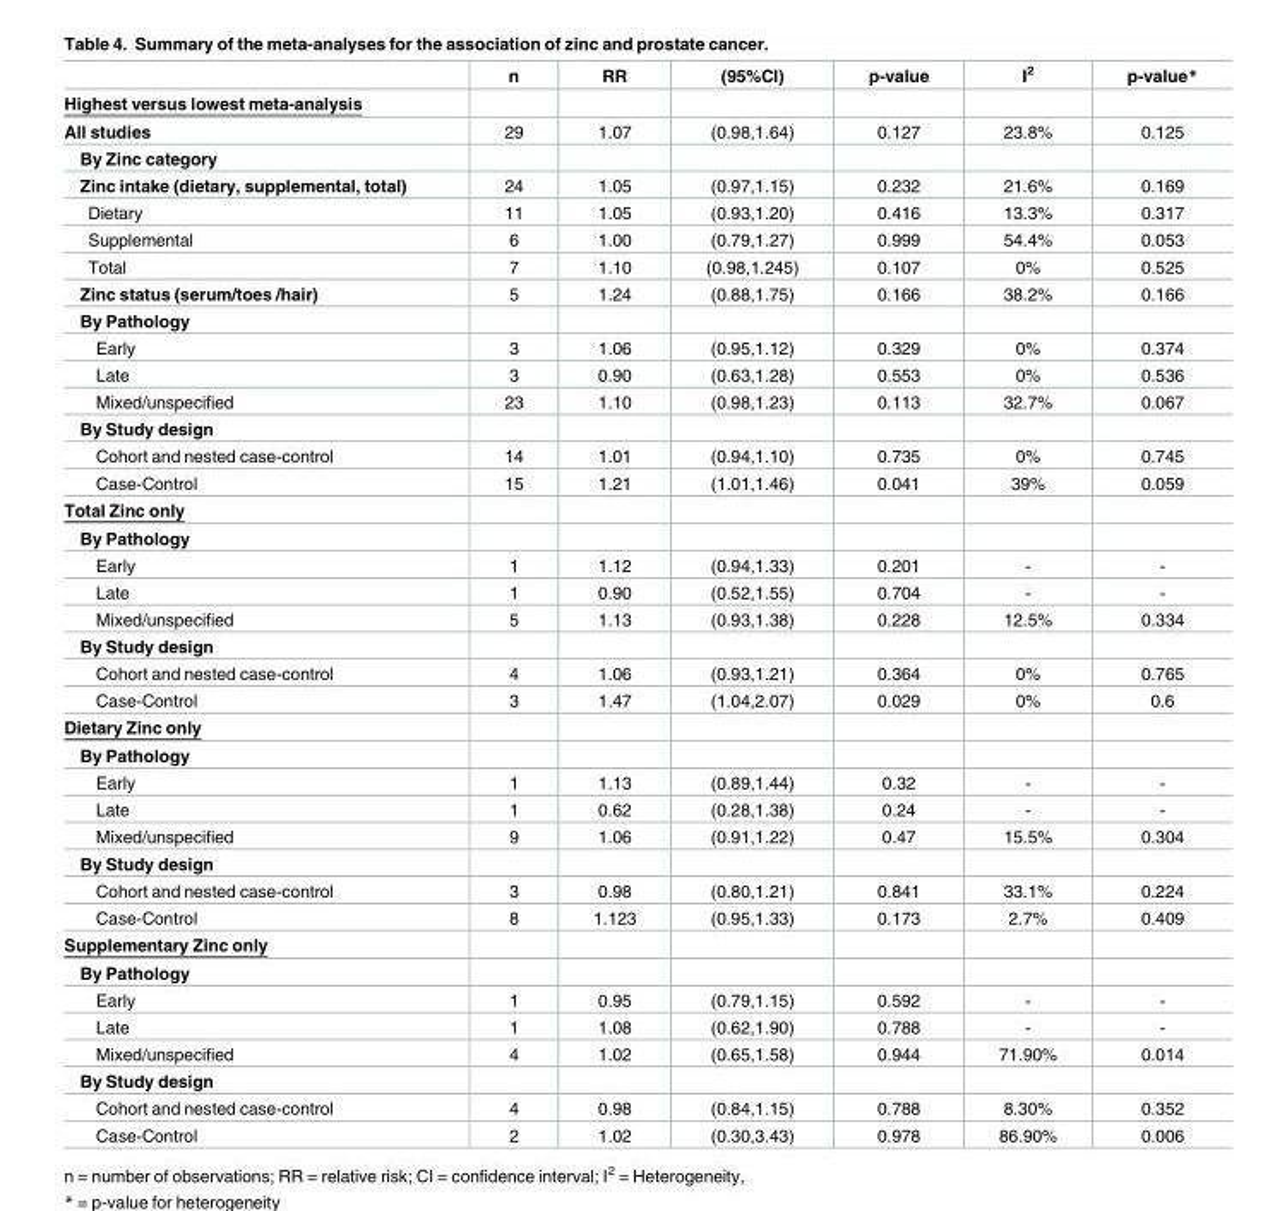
<table><thead><tr><td></td><td>n</td><td>RR</td><td>(95%CI)</td><td>p-value</td><td>I<sup>2</sup></td><td>p-value*</td></tr></thead><tbody><tr><td colspan="7">Highest versus lowest meta-analysis</td></tr><tr><td>All studies</td><td>29</td><td>1.07</td><td>(0.98,1.64)</td><td>0.127</td><td>23.8%</td><td>0.125</td></tr><tr><td colspan="7">By Zinc category</td></tr><tr><td>Zinc intake (dietary, supplemental, total)</td><td>24</td><td>1.05</td><td>(0.97,1.15)</td><td>0.232</td><td>21.6%</td><td>0.169</td></tr><tr><td>Dietary</td><td>11</td><td>1.05</td><td>(0.93,1.20)</td><td>0.416</td><td>13.3%</td><td>0.317</td></tr><tr><td>Supplemental</td><td>6</td><td>1.00</td><td>(0.79,1.27)</td><td>0.999</td><td>54.4%</td><td>0.053</td></tr><tr><td>Total</td><td>7</td><td>1.10</td><td>(0.98,1.245)</td><td>0.107</td><td>0%</td><td>0.525</td></tr><tr><td>Zinc status (serum/toes /hair)</td><td>5</td><td>1.24</td><td>(0.88,1.75)</td><td>0.166</td><td>38.2%</td><td>0.166</td></tr><tr><td colspan="7">By Pathology</td></tr><tr><td>Early</td><td>3</td><td>1.06</td><td>(0.95,1.12)</td><td>0.329</td><td>0%</td><td>0.374</td></tr><tr><td>Late</td><td>3</td><td>0.90</td><td>(0.63,1.28)</td><td>0.553</td><td>0%</td><td>0.536</td></tr><tr><td>Mixed/unspecified</td><td>23</td><td>1.10</td><td>(0.98,1.23)</td><td>0.113</td><td>32.7%</td><td>0.067</td></tr><tr><td colspan="7">By Study design</td></tr><tr><td>Cohort and nested case-control</td><td>14</td><td>1.01</td><td>(0.94,1.10)</td><td>0.735</td><td>0%</td><td>0.745</td></tr><tr><td>Case-Control</td><td>15</td><td>1.21</td><td>(1.01,1.46)</td><td>0.041</td><td>39%</td><td>0.059</td></tr><tr><td colspan="7">Total Zinc only</td></tr><tr><td colspan="7">By Pathology</td></tr><tr><td>Early</td><td>1</td><td>1.12</td><td>(0.94,1.33)</td><td>0.201</td><td>-</td><td>-</td></tr><tr><td>Late</td><td>1</td><td>0.90</td><td>(0.52,1.55)</td><td>0.704</td><td>-</td><td>-</td></tr><tr><td>Mixed/unspecified</td><td>5</td><td>1.13</td><td>(0.93,1.38)</td><td>0.228</td><td>12.5%</td><td>0.334</td></tr><tr><td colspan="7">By Study design</td></tr><tr><td>Cohort and nested case-control</td><td>4</td><td>1.06</td><td>(0.93,1.21)</td><td>0.364</td><td>0%</td><td>0.765</td></tr><tr><td>Case-Control</td><td>3</td><td>1.47</td><td>(1.04,2.07)</td><td>0.029</td><td>0%</td><td>0.6</td></tr><tr><td colspan="7">Dietary Zinc only</td></tr><tr><td colspan="7">By Pathology</td></tr><tr><td>Early</td><td>1</td><td>1.13</td><td>(0.89,1.44)</td><td>0.32</td><td>-</td><td>-</td></tr><tr><td>Late</td><td>1</td><td>0.62</td><td>(0.28,1.38)</td><td>0.24</td><td>-</td><td>-</td></tr><tr><td>Mixed/unspecified</td><td>9</td><td>1.06</td><td>(0.91,1.22)</td><td>0.47</td><td>15.5%</td><td>0.304</td></tr><tr><td colspan="7">By Study design</td></tr><tr><td>Cohort and nested case-control</td><td>3</td><td>0.98</td><td>(0.80,1.21)</td><td>0.841</td><td>33.1%</td><td>0.224</td></tr><tr><td>Case-Control</td><td>8</td><td>1.123</td><td>(0.95,1.33)</td><td>0.173</td><td>2.7%</td><td>0.409</td></tr><tr><td colspan="7">Supplementary Zinc only</td></tr><tr><td colspan="7">By Pathology</td></tr><tr><td>Early</td><td>1</td><td>0.95</td><td>(0.79,1.15)</td><td>0.592</td><td>-</td><td>-</td></tr><tr><td>Late</td><td>1</td><td>1.08</td><td>(0.62,1.90)</td><td>0.788</td><td>-</td><td>-</td></tr><tr><td>Mixed/unspecified</td><td>4</td><td>1.02</td><td>(0.65,1.58)</td><td>0.944</td><td>71.90%</td><td>0.014</td></tr><tr><td colspan="7">By Study design</td></tr><tr><td>Cohort and nested case-control</td><td>4</td><td>0.98</td><td>(0.84,1.15)</td><td>0.788</td><td>8.30%</td><td>0.352</td></tr><tr><td>Case-Control</td><td>2</td><td>1.02</td><td>(0.30,3.43)</td><td>0.978</td><td>86.90%</td><td>0.006</td></tr></tbody></table>